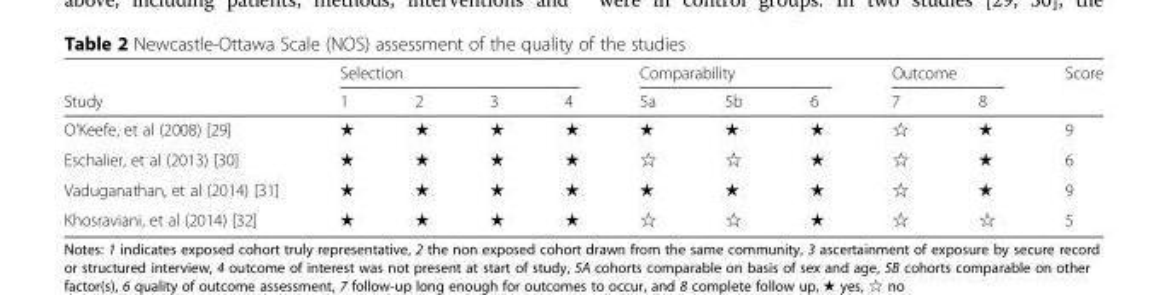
<table><thead><tr><td rowspan="2">Study</td><td colspan="4">Selection</td><td colspan="3">Comparability</td><td colspan="2">Outcome</td><td rowspan="2">Score</td></tr><tr><td>1</td><td>2</td><td>3</td><td>4</td><td>5a</td><td>5b</td><td>6</td><td>7</td><td>8</td></tr></thead><tbody><tr><td>O’Keefe, et al (2008) [29]</td><td>★</td><td>★</td><td>★</td><td>★</td><td>★</td><td>★</td><td>★</td><td>☆</td><td>★</td><td>9</td></tr><tr><td>Eschalier, et al (2013) [30]</td><td>★</td><td>★</td><td>★</td><td>★</td><td>☆</td><td>☆</td><td>★</td><td>☆</td><td>★</td><td>6</td></tr><tr><td>Vaduganathan, et al (2014) [31]</td><td>★</td><td>★</td><td>★</td><td>★</td><td>★</td><td>★</td><td>★</td><td>☆</td><td>★</td><td>9</td></tr><tr><td>Khosraviani, et al (2014) [32]</td><td>★</td><td>★</td><td>★</td><td>★</td><td>☆</td><td>☆</td><td>★</td><td>☆</td><td>☆</td><td>5</td></tr></tbody></table>